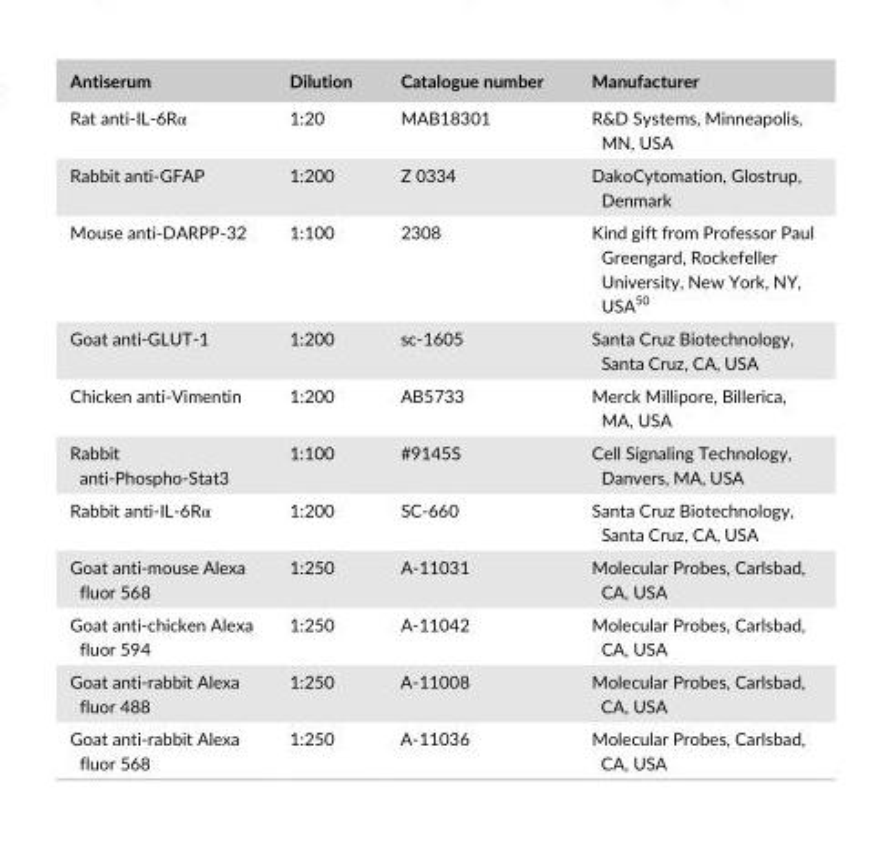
<table><thead><tr><td>Antiserum</td><td>Dilution</td><td>Catalogue number</td><td>Manufacturer</td></tr></thead><tbody><tr><td>Rat anti- IL- 6Rα</td><td>1:20</td><td>MAB18301</td><td>R&amp;D Systems, Minneapolis, MN, USA</td></tr><tr><td>Rabbit anti- GFAP</td><td>1:200</td><td>Z 0334</td><td>DakoCytomation, Glostrup, Denmark</td></tr><tr><td>Mouse anti- DARPP- 32</td><td>1:100</td><td>2308</td><td>Kind gift from Professor Paul Greengard, Rockefeller University, New York, NY, USA<sup>50</sup></td></tr><tr><td>Goat anti- GLUT- 1</td><td>1:200</td><td>sc- 1605</td><td>Santa Cruz Biotechnology, Santa Cruz, CA, USA</td></tr><tr><td>Chicken anti- Vimentin</td><td>1:200</td><td>AB5733</td><td>Merck Millipore, Billerica, MA, USA</td></tr><tr><td>Rabbit anti- Phospho- Stat3</td><td>1:100</td><td>#9145S</td><td>Cell Signaling Technology, Danvers, MA, USA</td></tr><tr><td>Rabbit anti- IL- 6Rα</td><td>1:200</td><td>SC- 660</td><td>Santa Cruz Biotechnology, Santa Cruz, CA, USA</td></tr><tr><td>Goat anti- mouse Alexa fluor 568</td><td>1:250</td><td>A- 11031</td><td>Molecular Probes, Carlsbad, CA, USA</td></tr><tr><td>Goat anti- chicken Alexa fluor 594</td><td>1:250</td><td>A- 11042</td><td>Molecular Probes, Carlsbad, CA, USA</td></tr><tr><td>Goat anti- rabbit Alexa fluor 488</td><td>1:250</td><td>A- 11008</td><td>Molecular Probes, Carlsbad, CA, USA</td></tr><tr><td>Goat anti- rabbit Alexa fluor 568</td><td>1:250</td><td>A- 11036</td><td>Molecular Probes, Carlsbad, CA, USA</td></tr></tbody></table>